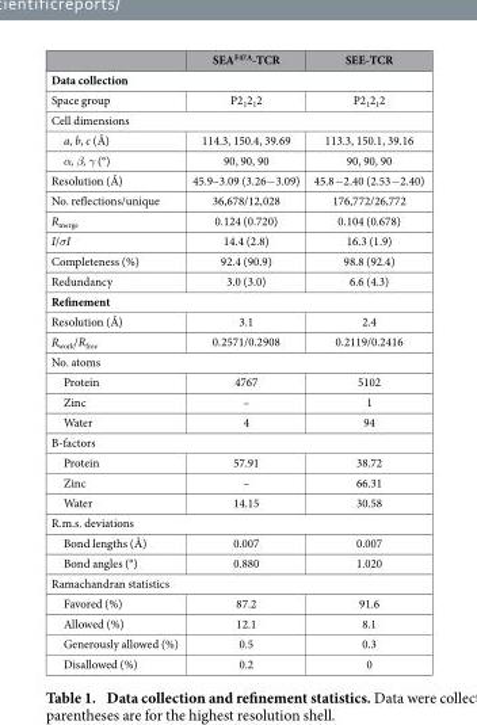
<table><thead><tr><td></td><td>SEA<sup>F47A</sup>-TCR</td><td>SEE-TCR</td></tr></thead><tbody><tr><td colspan="3">Data collection</td></tr><tr><td>Space group</td><td>P2<sub>1</sub>2<sub>1</sub>2</td><td>P2<sub>1</sub>2<sub>1</sub>2</td></tr><tr><td colspan="3">Cell dimensions</td></tr><tr><td>a, b, c (Å)</td><td>114.3, 150.4, 39.69</td><td>113.3, 150.1, 39.16</td></tr><tr><td>α, β, γ (°)</td><td>90, 90, 90</td><td>90, 90, 90</td></tr><tr><td>Resolution (Å)</td><td>45.9–3.09 (3.26− 3.09)</td><td>45.8− 2.40 (2.53− 2.40)</td></tr><tr><td>No. reflections/unique</td><td>36,678/12,028</td><td>176,772/26,772</td></tr><tr><td>R<sub>merge</sub></td><td>0.124 (0.720)</td><td>0.104 (0.678)</td></tr><tr><td>I/σI</td><td>14.4 (2.8)</td><td>16.3 (1.9)</td></tr><tr><td>Completeness (%)</td><td>92.4 (90.9)</td><td>98.8 (92.4)</td></tr><tr><td>Redundancy</td><td>3.0 (3.0)</td><td>6.6 (4.3)</td></tr><tr><td colspan="3">Refinement</td></tr><tr><td>Resolution (Å)</td><td>3.1</td><td>2.4</td></tr><tr><td>R<sub>work</sub>/R<sub>free</sub></td><td>0.2571/0.2908</td><td>0.2119/0.2416</td></tr><tr><td colspan="3">No. atoms</td></tr><tr><td>Protein</td><td>4767</td><td>5102</td></tr><tr><td>Zinc</td><td>–</td><td>1</td></tr><tr><td>Water</td><td>4</td><td>94</td></tr><tr><td colspan="3">B-factors</td></tr><tr><td>Protein</td><td>57.91</td><td>38.72</td></tr><tr><td>Zinc</td><td>–</td><td>66.31</td></tr><tr><td>Water</td><td>14.15</td><td>30.58</td></tr><tr><td colspan="3">R.m.s. deviations</td></tr><tr><td>Bond lengths (Å)</td><td>0.007</td><td>0.007</td></tr><tr><td>Bond angles (°)</td><td>0.880</td><td>1.020</td></tr><tr><td colspan="3">Ramachandran statistics</td></tr><tr><td>Favored (%)</td><td>87.2</td><td>91.6</td></tr><tr><td>Allowed (%)</td><td>12.1</td><td>8.1</td></tr><tr><td>Generously allowed (%)</td><td>0.5</td><td>0.3</td></tr><tr><td>Disallowed (%)</td><td>0.2</td><td>0</td></tr></tbody></table>